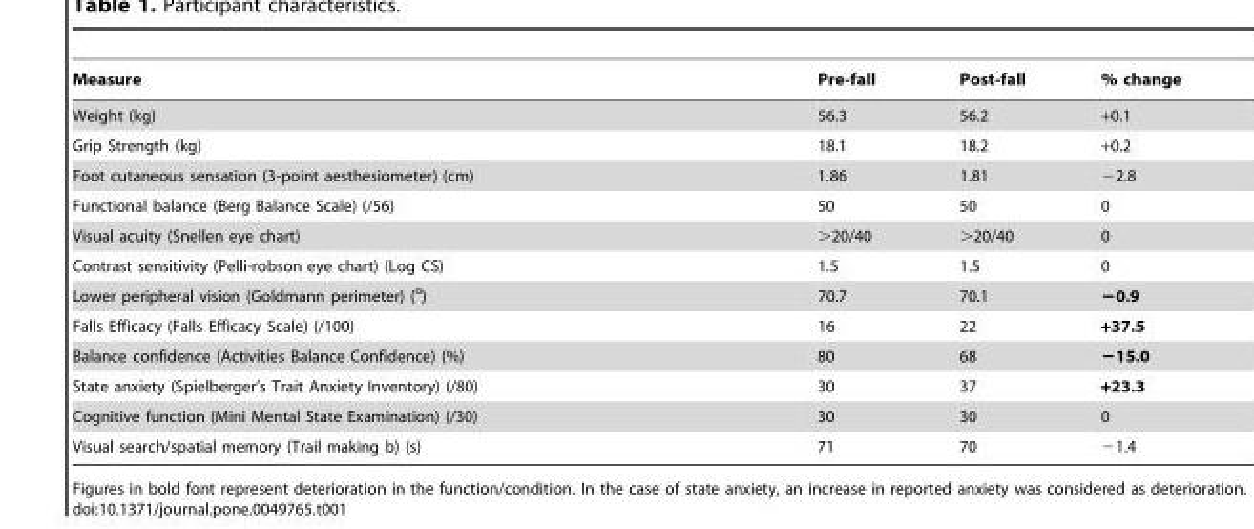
<table><thead><tr><td>Measure</td><td>Pre-fall</td><td>Post-fall</td><td>% change</td></tr></thead><tbody><tr><td>Weight (kg)</td><td>56.3</td><td>56.2</td><td>+0.1</td></tr><tr><td>Grip Strength (kg)</td><td>18.1</td><td>18.2</td><td>+0.2</td></tr><tr><td>Foot cutaneous sensation (3-point aesthesiometer) (cm)</td><td>1.86</td><td>1.81</td><td>−2.8</td></tr><tr><td>Functional balance (Berg Balance Scale) (/56)</td><td>50</td><td>50</td><td>0</td></tr><tr><td>Visual acuity (Snellen eye chart)</td><td>&gt;20/40</td><td>&gt;20/40</td><td>0</td></tr><tr><td>Contrast sensitivity (Pelli-robson eye chart) (Log CS)</td><td>1.5</td><td>1.5</td><td>0</td></tr><tr><td>Lower peripheral vision (Goldmann perimeter) (<sup>o</sup>)</td><td>70.7</td><td>70.1</td><td>−0.9</td></tr><tr><td>Falls Efficacy (Falls Efficacy Scale) (/100)</td><td>16</td><td>22</td><td>+37.5</td></tr><tr><td>Balance confidence (Activities Balance Confidence) (%)</td><td>80</td><td>68</td><td>−15.0</td></tr><tr><td>State anxiety (Spielberger’s Trait Anxiety Inventory) (/80)</td><td>30</td><td>37</td><td>+23.3</td></tr><tr><td>Cognitive function (Mini Mental State Examination) (/30)</td><td>30</td><td>30</td><td>0</td></tr><tr><td>Visual search/spatial memory (Trail making b) (s)</td><td>71</td><td>70</td><td>−1.4</td></tr></tbody></table>